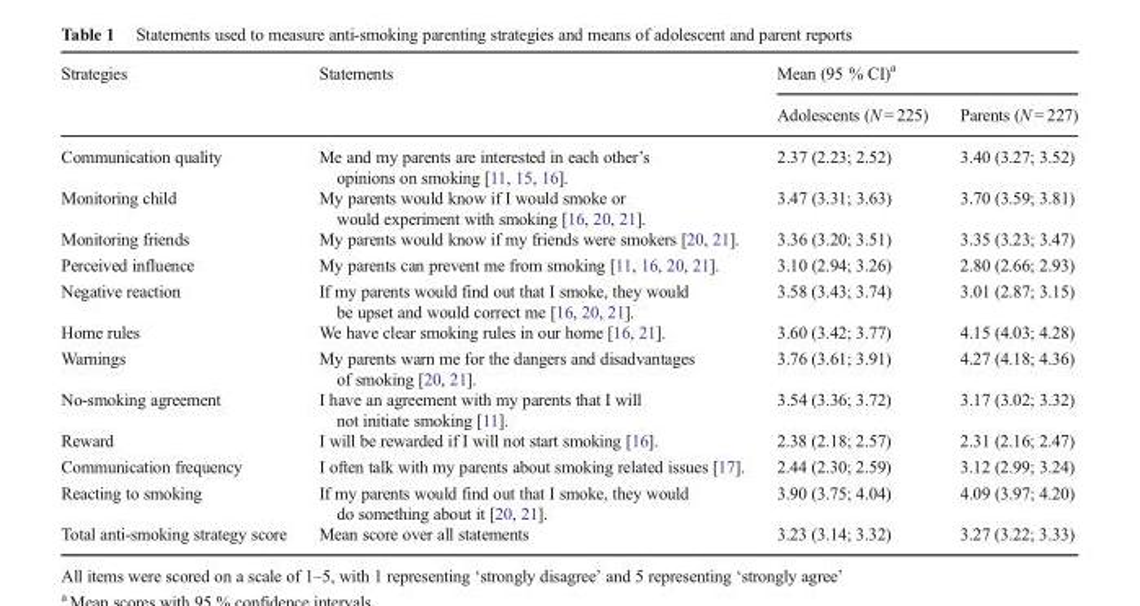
<table><thead><tr><td rowspan="2">Strategies</td><td rowspan="2">Statements</td><td colspan="2">Mean (95 % CI)<sup>a</sup></td></tr><tr><td>Adolescents (N = 225)</td><td>Parents (N = 227)</td></tr></thead><tbody><tr><td>Communication quality</td><td>Me and my parents are interested in each other’s opinions on smoking [11, 15, 16].</td><td>2.37 (2.23; 2.52)</td><td>3.40 (3.27; 3.52)</td></tr><tr><td>Monitoring child</td><td>My parents would know if I would smoke or would experiment with smoking [16, 20, 21].</td><td>3.47 (3.31; 3.63)</td><td>3.70 (3.59; 3.81)</td></tr><tr><td>Monitoring friends</td><td>My parents would know if my friends were smokers [20, 21].</td><td>3.36 (3.20; 3.51)</td><td>3.35 (3.23; 3.47)</td></tr><tr><td>Perceived influence</td><td>My parents can prevent me from smoking [11, 16, 20, 21].</td><td>3.10 (2.94; 3.26)</td><td>2.80 (2.66; 2.93)</td></tr><tr><td>Negative reaction</td><td>If my parents would find out that I smoke, they would be upset and would correct me [16, 20, 21].</td><td>3.58 (3.43; 3.74)</td><td>3.01 (2.87; 3.15)</td></tr><tr><td>Home rules</td><td>We have clear smoking rules in our home [16, 21].</td><td>3.60 (3.42; 3.77)</td><td>4.15 (4.03; 4.28)</td></tr><tr><td>Warnings</td><td>My parents warn me for the dangers and disadvantages of smoking [20, 21].</td><td>3.76 (3.61; 3.91)</td><td>4.27 (4.18; 4.36)</td></tr><tr><td>No-smoking agreement</td><td>I have an agreement with my parents that I will not initiate smoking [11].</td><td>3.54 (3.36; 3.72)</td><td>3.17 (3.02; 3.32)</td></tr><tr><td>Reward</td><td>I will be rewarded if I will not start smoking [16].</td><td>2.38 (2.18; 2.57)</td><td>2.31 (2.16; 2.47)</td></tr><tr><td>Communication frequency</td><td>I often talk with my parents about smoking related issues [17].</td><td>2.44 (2.30; 2.59)</td><td>3.12 (2.99; 3.24)</td></tr><tr><td>Reacting to smoking</td><td>If my parents would find out that I smoke, they would do something about it [20, 21].</td><td>3.90 (3.75; 4.04)</td><td>4.09 (3.97; 4.20)</td></tr><tr><td>Total anti-smoking strategy score</td><td>Mean score over all statements</td><td>3.23 (3.14; 3.32)</td><td>3.27 (3.22; 3.33)</td></tr></tbody></table>